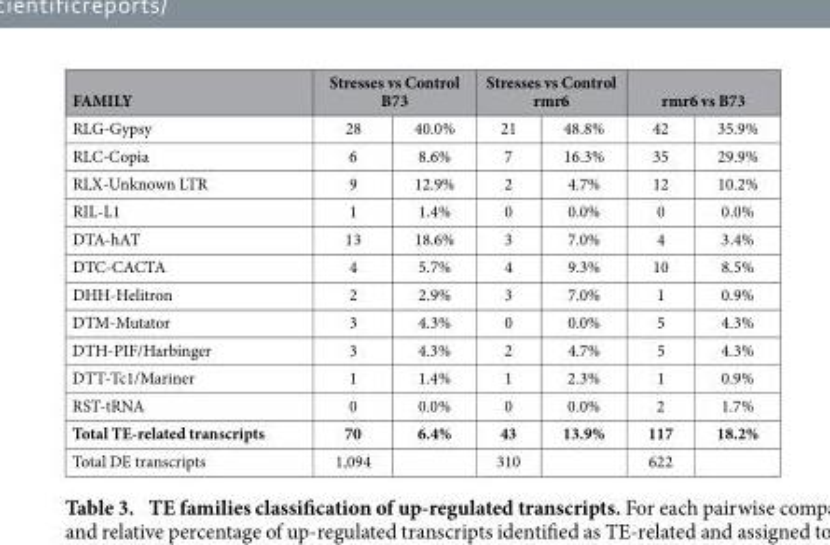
<table><thead><tr><td rowspan="2">FAMILY RLG-Gypsy</td><td colspan="2">Stresses vs Control B73</td><td colspan="2">Stresses vs Control rmr6</td><td colspan="2">rmr6 vs B73</td></tr><tr><td>28</td><td>40.0%</td><td>21</td><td>48.8%</td><td>42</td><td>35.9%</td></tr></thead><tbody><tr><td>RLC-Copia</td><td>6</td><td>8.6%</td><td>7</td><td>16.3%</td><td>35</td><td>29.9%</td></tr><tr><td>RLX-Unknown LTR</td><td>9</td><td>12.9%</td><td>2</td><td>4.7%</td><td>12</td><td>10.2%</td></tr><tr><td>RIL-L1</td><td>1</td><td>1.4%</td><td>0</td><td>0.0%</td><td>0</td><td>0.0%</td></tr><tr><td>DTA-hAT</td><td>13</td><td>18.6%</td><td>3</td><td>7.0%</td><td>4</td><td>3.4%</td></tr><tr><td>DTC-CACTA</td><td>4</td><td>5.7%</td><td>4</td><td>9.3%</td><td>10</td><td>8.5%</td></tr><tr><td>DHH-Helitron</td><td>2</td><td>2.9%</td><td>3</td><td>7.0%</td><td>1</td><td>0.9%</td></tr><tr><td>DTM-Mutator</td><td>3</td><td>4.3%</td><td>0</td><td>0.0%</td><td>5</td><td>4.3%</td></tr><tr><td>DTH-PIF/Harbinger</td><td>3</td><td>4.3%</td><td>2</td><td>4.7%</td><td>5</td><td>4.3%</td></tr><tr><td>DTT-Tc1/Mariner</td><td>1</td><td>1.4%</td><td>1</td><td>2.3%</td><td>1</td><td>0.9%</td></tr><tr><td>RST-tRNA</td><td>0</td><td>0.0%</td><td>0</td><td>0.0%</td><td>2</td><td>1.7%</td></tr><tr><td>Total TE-related transcripts</td><td>70</td><td>6.4%</td><td>43</td><td>13.9%</td><td>117</td><td>18.2%</td></tr><tr><td>Total DE transcripts</td><td>1,094</td><td></td><td>310</td><td></td><td>622</td><td></td></tr></tbody></table>